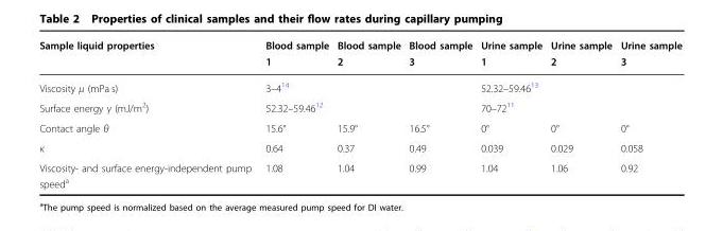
<table><thead><tr><td>Sample liquid properties</td><td>Blood sample 1</td><td>Blood sample 2</td><td>Blood sample 3</td><td>Urine sample 1</td><td>Urine sample 2</td><td>Urine sample 3</td></tr></thead><tbody><tr><td>Viscosity μ (mPa s)</td><td colspan="3">3–4<sup>14</sup></td><td colspan="3">52.32–59.46<sup>13</sup></td></tr><tr><td>Surface energy γ (mJ/m<sup>2</sup>)</td><td colspan="3">52.32–59.46<sup>12</sup></td><td colspan="3">70–72<sup>11</sup></td></tr><tr><td>Contact angle θ</td><td>15.6°</td><td>15.9°</td><td>16.5°</td><td>0°</td><td>0°</td><td>0°</td></tr><tr><td>κ</td><td>0.64</td><td>0.37</td><td>0.49</td><td>0.039</td><td>0.029</td><td>0.058</td></tr><tr><td>Viscosity- and surface energy-independent pump speed<sup>a</sup></td><td>1.08</td><td>1.04</td><td>0.99</td><td>1.04</td><td>1.06</td><td>0.92</td></tr></tbody></table>